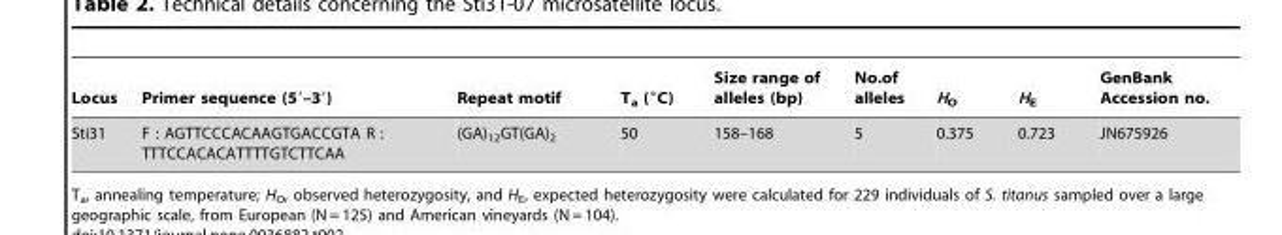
<table><thead><tr><td>Locus</td><td>Primer sequence (5′–3′)</td><td>Repeat motif</td><td>T<sub>a</sub> (°C)</td><td>Size range of alleles (bp)</td><td>No.of alleles</td><td>H<sub>O</sub></td><td>H<sub>E</sub></td><td>GenBank Accession no.</td></tr></thead><tbody><tr><td>Sti31</td><td>F : AGTTCCCACAAGTGACCGTA R : TTTCCACACATTTTGTCTTCAA</td><td>(GA)<sub>12</sub>GT(GA)<sub>2</sub></td><td>50</td><td>158–168</td><td>5</td><td>0.375</td><td>0.723</td><td>JN675926</td></tr></tbody></table>